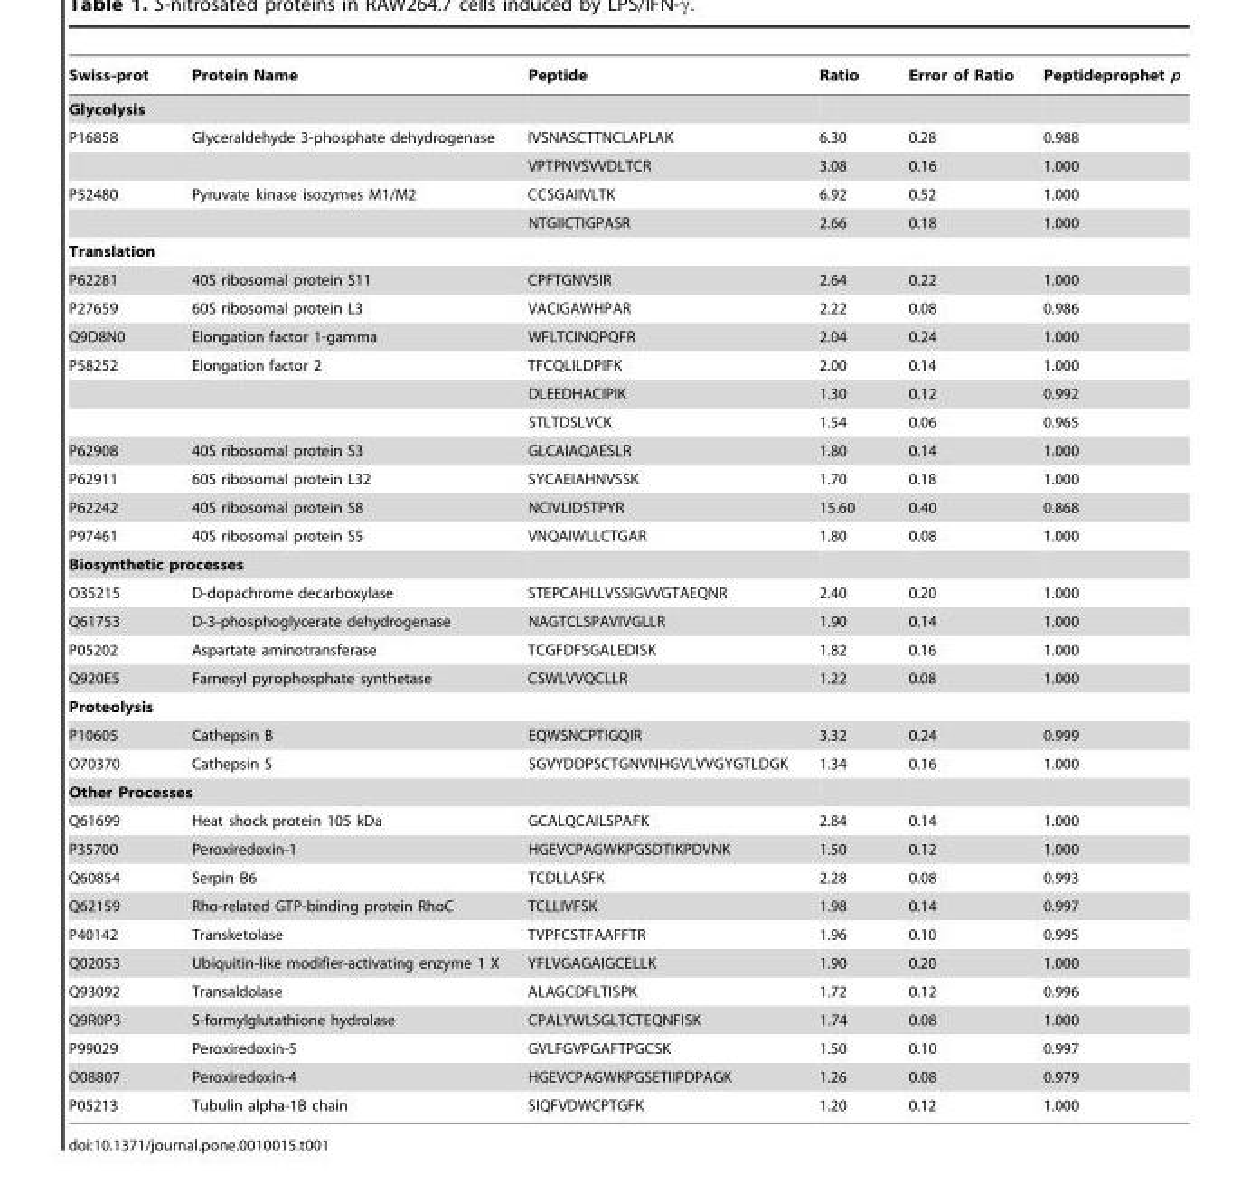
<table><thead><tr><td>Swiss-prot</td><td>Protein Name</td><td>Peptide</td><td>Ratio</td><td>Error of Ratio</td><td>Peptideprophet p</td></tr></thead><tbody><tr><td colspan="6">Glycolysis</td></tr><tr><td rowspan="2">P16858</td><td>Glyceraldehyde 3-phosphate dehydrogenase</td><td>IVSNASCTTNCLAPLAK</td><td>6.30</td><td>0.28</td><td>0.988</td></tr><tr><td></td><td>VPTPNVSVVDLTCR</td><td>3.08</td><td>0.16</td><td>1.000</td></tr><tr><td rowspan="2">P52480</td><td>Pyruvate kinase isozymes M1/M2</td><td>CCSGAIIVLTK</td><td>6.92</td><td>0.52</td><td>1.000</td></tr><tr><td></td><td>NTGIICTIGPASR</td><td>2.66</td><td>0.18</td><td>1.000</td></tr><tr><td colspan="6">Translation</td></tr><tr><td>P62281</td><td>40S ribosomal protein S11</td><td>CPFTGNVSIR</td><td>2.64</td><td>0.22</td><td>1.000</td></tr><tr><td>P27659</td><td>60S ribosomal protein L3</td><td>VACIGAWHPAR</td><td>2.22</td><td>0.08</td><td>0.986</td></tr><tr><td>Q9D8N0</td><td>Elongation factor 1-gamma</td><td>WFLTCINQPQFR</td><td>2.04</td><td>0.24</td><td>1.000</td></tr><tr><td rowspan="3">P58252</td><td>Elongation factor 2</td><td>TFCQLILDPIFK</td><td>2.00</td><td>0.14</td><td>1.000</td></tr><tr><td></td><td>DLEEDHACIPIK</td><td>1.30</td><td>0.12</td><td>0.992</td></tr><tr><td></td><td>STLTDSLVCK</td><td>1.54</td><td>0.06</td><td>0.965</td></tr><tr><td>P62908</td><td>40S ribosomal protein S3</td><td>GLCAIAQAESLR</td><td>1.80</td><td>0.14</td><td>1.000</td></tr><tr><td>P62911</td><td>60S ribosomal protein L32</td><td>SYCAEIAHNVSSK</td><td>1.70</td><td>0.18</td><td>1.000</td></tr><tr><td>P62242</td><td>40S ribosomal protein S8</td><td>NCIVLIDSTPYR</td><td>15.60</td><td>0.40</td><td>0.868</td></tr><tr><td>P97461</td><td>40S ribosomal protein S5</td><td>VNQAIWLLCTGAR</td><td>1.80</td><td>0.08</td><td>1.000</td></tr><tr><td colspan="6">Biosynthetic processes</td></tr><tr><td>O35215</td><td>D-dopachrome decarboxylase</td><td>STEPCAHLLVSSIGVVGTAEQNR</td><td>2.40</td><td>0.20</td><td>1.000</td></tr><tr><td>Q61753</td><td>D-3-phosphoglycerate dehydrogenase</td><td>NAGTCLSPAVIVGLLR</td><td>1.90</td><td>0.14</td><td>1.000</td></tr><tr><td>P05202</td><td>Aspartate aminotransferase</td><td>TCGFDFSGALEDISK</td><td>1.82</td><td>0.16</td><td>1.000</td></tr><tr><td>Q920E5</td><td>Farnesyl pyrophosphate synthetase</td><td>CSWLVVQCLLR</td><td>1.22</td><td>0.08</td><td>1.000</td></tr><tr><td colspan="6">Proteolysis</td></tr><tr><td>P10605</td><td>Cathepsin B</td><td>EQWSNCPTIGQIR</td><td>3.32</td><td>0.24</td><td>0.999</td></tr><tr><td>O70370</td><td>Cathepsin S</td><td>SGVYDDPSCTGNVNHGVLVVGYGTLDGK</td><td>1.34</td><td>0.16</td><td>1.000</td></tr><tr><td colspan="6">Other Processes</td></tr><tr><td>Q61699</td><td>Heat shock protein 105 kDa</td><td>GCALQCAILSPAFK</td><td>2.84</td><td>0.14</td><td>1.000</td></tr><tr><td>P35700</td><td>Peroxiredoxin-1</td><td>HGEVCPAGWKPGSDTIKPDVNK</td><td>1.50</td><td>0.12</td><td>1.000</td></tr><tr><td>Q60854</td><td>Serpin B6</td><td>TCDLLASFK</td><td>2.28</td><td>0.08</td><td>0.993</td></tr><tr><td>Q62159</td><td>Rho-related GTP-binding protein RhoC</td><td>TCLLIVFSK</td><td>1.98</td><td>0.14</td><td>0.997</td></tr><tr><td>P40142</td><td>Transketolase</td><td>TVPFCSTFAAFFTR</td><td>1.96</td><td>0.10</td><td>0.995</td></tr><tr><td>Q02053</td><td>Ubiquitin-like modifier-activating enzyme 1 X</td><td>YFLVGAGAIGCELLK</td><td>1.90</td><td>0.20</td><td>1.000</td></tr><tr><td>Q93092</td><td>Transaldolase</td><td>ALAGCDFLTISPK</td><td>1.72</td><td>0.12</td><td>0.996</td></tr><tr><td>Q9R0P3</td><td>S-formylglutathione hydrolase</td><td>CPALYWLSGLTCTEQNFISK</td><td>1.74</td><td>0.08</td><td>1.000</td></tr><tr><td>P99029</td><td>Peroxiredoxin-5</td><td>GVLFGVPGAFTPGCSK</td><td>1.50</td><td>0.10</td><td>0.997</td></tr><tr><td>O08807</td><td>Peroxiredoxin-4</td><td>HGEVCPAGWKPGSETIIPDPAGK</td><td>1.26</td><td>0.08</td><td>0.979</td></tr><tr><td>P05213</td><td>Tubulin alpha-1B chain</td><td>SIQFVDWCPTGFK</td><td>1.20</td><td>0.12</td><td>1.000</td></tr></tbody></table>